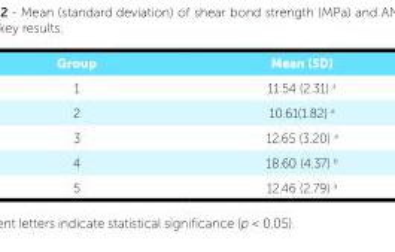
<table><thead><tr><td>Group</td><td>Mean (SD)</td></tr></thead><tbody><tr><td>1</td><td>11.54 (2.31) <sup>a</sup></td></tr><tr><td>2</td><td>10.61(1.82) <sup>a</sup></td></tr><tr><td>3</td><td>12.65 (3.20) <sup>a</sup></td></tr><tr><td>4</td><td>18.60 (4.37) <sup>b</sup></td></tr><tr><td>5</td><td>12.46 (2.79) <sup>a</sup></td></tr></tbody></table>